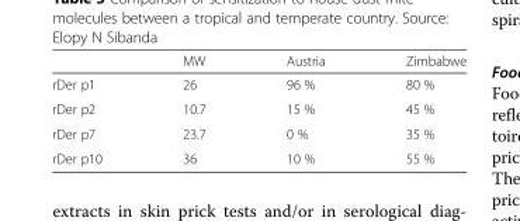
<table><thead><tr><td></td><td>MW</td><td>Austria</td><td>Zimbabwe</td></tr></thead><tbody><tr><td>rDer p1</td><td>26</td><td>96 %</td><td>80 %</td></tr><tr><td>rDer p2</td><td>10.7</td><td>15 %</td><td>45 %</td></tr><tr><td>rDer p7</td><td>23.7</td><td>0 %</td><td>35 %</td></tr><tr><td>rDer p10</td><td>36</td><td>10 %</td><td>55 %</td></tr></tbody></table>